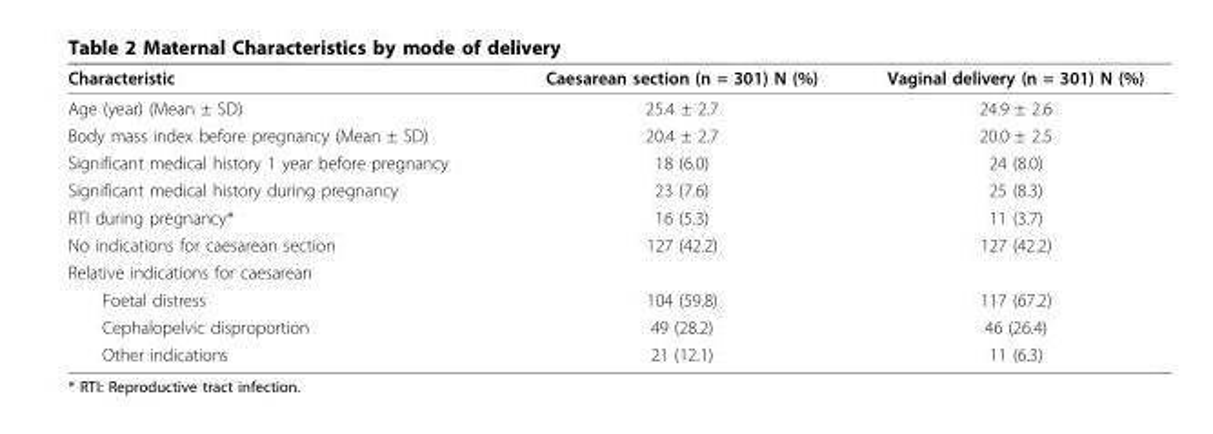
<table><thead><tr><td>Characteristic</td><td>Caesarean section (n = 301) N (%)</td><td>Vaginal delivery (n = 301) N (%)</td></tr></thead><tbody><tr><td>Age (year) (Mean ± SD)</td><td>25.4 ± 2.7</td><td>24.9 ± 2.6</td></tr><tr><td>Body mass index before pregnancy (Mean ± SD)</td><td>20.4 ± 2.7</td><td>20.0 ± 2.5</td></tr><tr><td>Significant medical history 1 year before pregnancy</td><td>18 (6.0)</td><td>24 (8.0)</td></tr><tr><td>Significant medical history during pregnancy</td><td>23 (7.6)</td><td>25 (8.3)</td></tr><tr><td>RTI during pregnancy*</td><td>16 (5.3)</td><td>11 (3.7)</td></tr><tr><td>No indications for caesarean section</td><td>127 (42.2)</td><td>127 (42.2)</td></tr><tr><td colspan="3">Relative indications for caesarean</td></tr><tr><td>Foetal distress</td><td>104 (59.8)</td><td>117 (67.2)</td></tr><tr><td>Cephalopelvic disproportion</td><td>49 (28.2)</td><td>46 (26.4)</td></tr><tr><td>Other indications</td><td>21 (12.1)</td><td>11 (6.3)</td></tr></tbody></table>